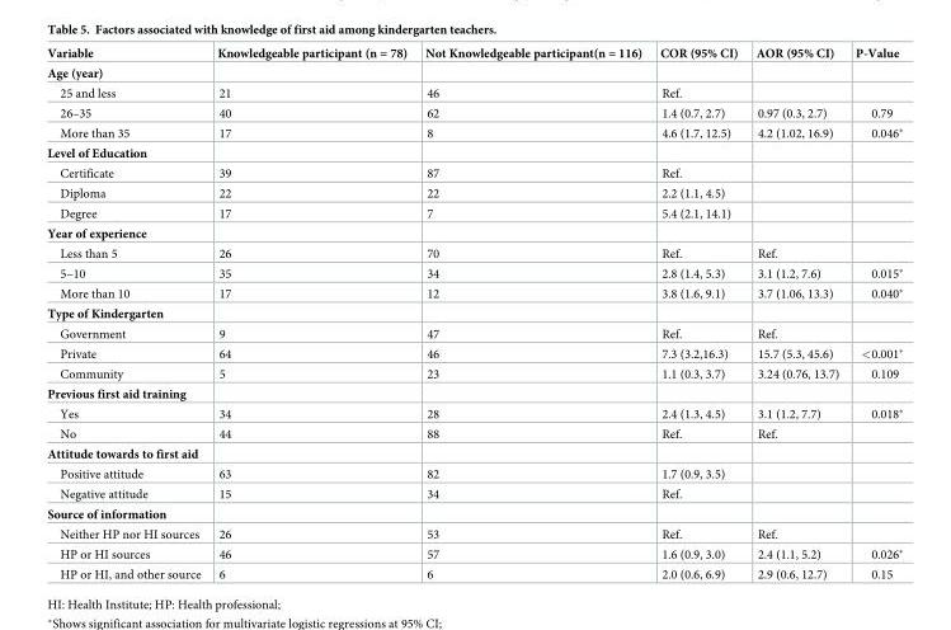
<table><thead><tr><td>Variable</td><td>Knowledgeable participant (n = 78)</td><td>Not Knowledgeable participant(n = 116)</td><td>COR (95% CI)</td><td>AOR (95% CI)</td><td>P-Value</td></tr></thead><tbody><tr><td colspan="6">Age (year)</td></tr><tr><td>25 and less</td><td>21</td><td>46</td><td>Ref.</td><td></td><td></td></tr><tr><td>26–35</td><td>40</td><td>62</td><td>1.4 (0.7, 2.7)</td><td>0.97 (0.3, 2.7)</td><td>0.79</td></tr><tr><td>More than 35</td><td>17</td><td>8</td><td>4.6 (1.7, 12.5)</td><td>4.2 (1.02, 16.9)</td><td>0.046*</td></tr><tr><td colspan="6">Level of Education</td></tr><tr><td>Certificate</td><td>39</td><td>87</td><td>Ref.</td><td></td><td></td></tr><tr><td>Diploma</td><td>22</td><td>22</td><td>2.2 (1.1, 4.5)</td><td></td><td></td></tr><tr><td>Degree</td><td>17</td><td>7</td><td>5.4 (2.1, 14.1)</td><td></td><td></td></tr><tr><td colspan="6">Year of experience</td></tr><tr><td>Less than 5</td><td>26</td><td>70</td><td>Ref.</td><td>Ref.</td><td></td></tr><tr><td>5–10</td><td>35</td><td>34</td><td>2.8 (1.4, 5.3)</td><td>3.1 (1.2, 7.6)</td><td>0.015*</td></tr><tr><td>More than 10</td><td>17</td><td>12</td><td>3.8 (1.6, 9.1)</td><td>3.7 (1.06, 13.3)</td><td>0.040*</td></tr><tr><td colspan="6">Type of Kindergarten</td></tr><tr><td>Government</td><td>9</td><td>47</td><td>Ref.</td><td>Ref.</td><td></td></tr><tr><td>Private</td><td>64</td><td>46</td><td>7.3 (3.2,16.3)</td><td>15.7 (5.3, 45.6)</td><td>&lt;0.001*</td></tr><tr><td>Community</td><td>5</td><td>23</td><td>1.1 (0.3, 3.7)</td><td>3.24 (0.76, 13.7)</td><td>0.109</td></tr><tr><td colspan="6">Previous first aid training</td></tr><tr><td>Yes</td><td>34</td><td>28</td><td>2.4 (1.3, 4.5)</td><td>3.1 (1.2, 7.7)</td><td>0.018*</td></tr><tr><td>No</td><td>44</td><td>88</td><td>Ref.</td><td>Ref.</td><td></td></tr><tr><td colspan="6">Attitude towards to first aid</td></tr><tr><td>Positive attitude</td><td>63</td><td>82</td><td>1.7 (0.9, 3.5)</td><td></td><td></td></tr><tr><td>Negative attitude</td><td>15</td><td>34</td><td>Ref.</td><td></td><td></td></tr><tr><td colspan="6">Source of information</td></tr><tr><td>Neither HP nor HI sources</td><td>26</td><td>53</td><td>Ref.</td><td>Ref.</td><td></td></tr><tr><td>HP or HI sources</td><td>46</td><td>57</td><td>1.6 (0.9, 3.0)</td><td>2.4 (1.1, 5.2)</td><td>0.026*</td></tr><tr><td>HP or HI, and other source</td><td>6</td><td>6</td><td>2.0 (0.6, 6.9)</td><td>2.9 (0.6, 12.7)</td><td>0.15</td></tr></tbody></table>